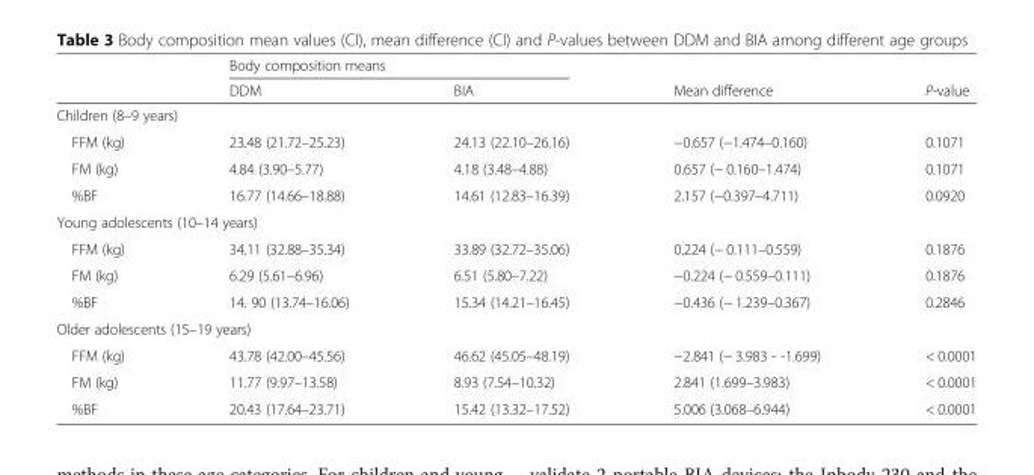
<table><thead><tr><td rowspan="2"></td><td colspan="2">Body composition means</td><td rowspan="2">Mean difference</td><td rowspan="2">P-value</td></tr><tr><td>DDM</td><td>BIA</td></tr></thead><tbody><tr><td colspan="5">Children (8–9 years)</td></tr><tr><td>FFM (kg)</td><td>23.48 (21.72–25.23)</td><td>24.13 (22.10–26.16)</td><td>−0.657 (−1.474–0.160)</td><td>0.1071</td></tr><tr><td>FM (kg)</td><td>4.84 (3.90–5.77)</td><td>4.18 (3.48–4.88)</td><td>0.657 (− 0.160–1.474)</td><td>0.1071</td></tr><tr><td>%BF</td><td>16.77 (14.66–18.88)</td><td>14.61 (12.83–16.39)</td><td>2.157 (−0.397–4.711)</td><td>0.0920</td></tr><tr><td colspan="5">Young adolescents (10–14 years)</td></tr><tr><td>FFM (kg)</td><td>34.11 (32.88–35.34)</td><td>33.89 (32.72–35.06)</td><td>0.224 (− 0.111–0.559)</td><td>0.1876</td></tr><tr><td>FM (kg)</td><td>6.29 (5.61–6.96)</td><td>6.51 (5.80–7.22)</td><td>−0.224 (− 0.559–0.111)</td><td>0.1876</td></tr><tr><td>%BF</td><td>14. 90 (13.74–16.06)</td><td>15.34 (14.21–16.45)</td><td>−0.436 (− 1.239–0.367)</td><td>0.2846</td></tr><tr><td colspan="5">Older adolescents (15–19 years)</td></tr><tr><td>FFM (kg)</td><td>43.78 (42.00–45.56)</td><td>46.62 (45.05–48.19)</td><td>−2.841 (− 3.983 - -1.699)</td><td>&lt; 0.0001</td></tr><tr><td>FM (kg)</td><td>11.77 (9.97–13.58)</td><td>8.93 (7.54–10.32)</td><td>2.841 (1.699–3.983)</td><td>&lt; 0.0001</td></tr><tr><td>%BF</td><td>20.43 (17.64–23.71)</td><td>15.42 (13.32–17.52)</td><td>5.006 (3.068–6.944)</td><td>&lt; 0.0001</td></tr></tbody></table>